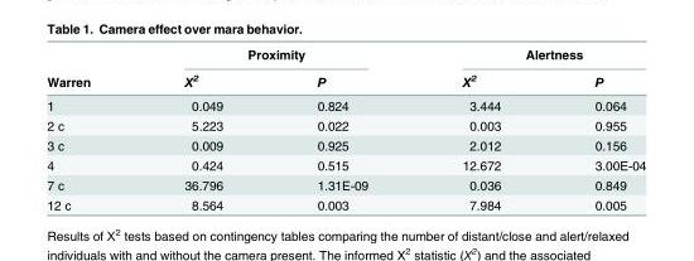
<table><thead><tr><td rowspan="2">Warren</td><td colspan="2">Proximity</td><td colspan="2">Alertness</td></tr><tr><td>X<sup>2</sup></td><td>P</td><td>X<sup>2</sup></td><td>P</td></tr></thead><tbody><tr><td>1</td><td>0.049</td><td>0.824</td><td>3.444</td><td>0.064</td></tr><tr><td>2 c</td><td>5.223</td><td>0.022</td><td>0.003</td><td>0.955</td></tr><tr><td>3 c</td><td>0.009</td><td>0.925</td><td>2.012</td><td>0.156</td></tr><tr><td>4</td><td>0.424</td><td>0.515</td><td>12.672</td><td>3.00E-04</td></tr><tr><td>7 c</td><td>36.796</td><td>1.31E-09</td><td>0.036</td><td>0.849</td></tr><tr><td>12 c</td><td>8.564</td><td>0.003</td><td>7.984</td><td>0.005</td></tr></tbody></table>